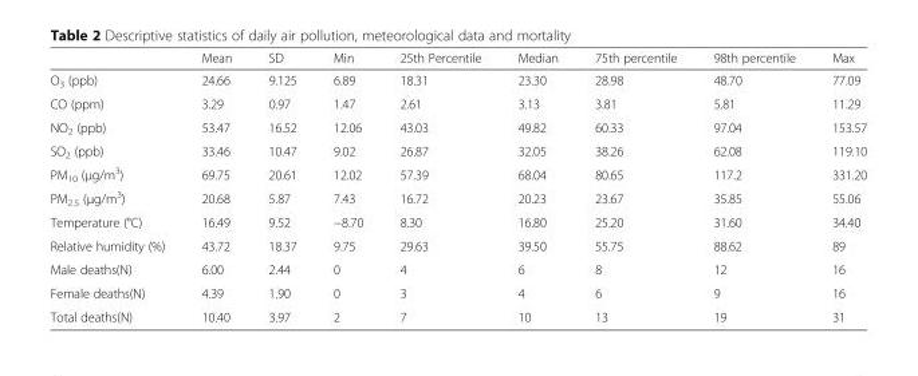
<table><thead><tr><td></td><td>Mean</td><td>SD</td><td>Min</td><td>25th Percentile</td><td>Median</td><td>75th percentile</td><td>98th percentile</td><td>Max</td></tr></thead><tbody><tr><td>O<sub>3</sub> (ppb)</td><td>24.66</td><td>9.125</td><td>6.89</td><td>18.31</td><td>23.30</td><td>28.98</td><td>48.70</td><td>77.09</td></tr><tr><td>CO (ppm)</td><td>3.29</td><td>0.97</td><td>1.47</td><td>2.61</td><td>3.13</td><td>3.81</td><td>5.81</td><td>11.29</td></tr><tr><td>NO<sub>2</sub> (ppb)</td><td>53.47</td><td>16.52</td><td>12.06</td><td>43.03</td><td>49.82</td><td>60.33</td><td>97.04</td><td>153.57</td></tr><tr><td>SO<sub>2</sub> (ppb)</td><td>33.46</td><td>10.47</td><td>9.02</td><td>26.87</td><td>32.05</td><td>38.26</td><td>62.08</td><td>119.10</td></tr><tr><td>PM<sub>10</sub> (μg/m<sup>3</sup>)</td><td>69.75</td><td>20.61</td><td>12.02</td><td>57.39</td><td>68.04</td><td>80.65</td><td>117.2</td><td>331.20</td></tr><tr><td>PM<sub>2.5</sub> (μg/m<sup>3</sup>)</td><td>20.68</td><td>5.87</td><td>7.43</td><td>16.72</td><td>20.23</td><td>23.67</td><td>35.85</td><td>55.06</td></tr><tr><td>Temperature (°C)</td><td>16.49</td><td>9.52</td><td>−8.70</td><td>8.30</td><td>16.80</td><td>25.20</td><td>31.60</td><td>34.40</td></tr><tr><td>Relative humidity (%)</td><td>43.72</td><td>18.37</td><td>9.75</td><td>29.63</td><td>39.50</td><td>55.75</td><td>88.62</td><td>89</td></tr><tr><td>Male deaths(N)</td><td>6.00</td><td>2.44</td><td>0</td><td>4</td><td>6</td><td>8</td><td>12</td><td>16</td></tr><tr><td>Female deaths(N)</td><td>4.39</td><td>1.90</td><td>0</td><td>3</td><td>4</td><td>6</td><td>9</td><td>16</td></tr><tr><td>Total deaths(N)</td><td>10.40</td><td>3.97</td><td>2</td><td>7</td><td>10</td><td>13</td><td>19</td><td>31</td></tr></tbody></table>